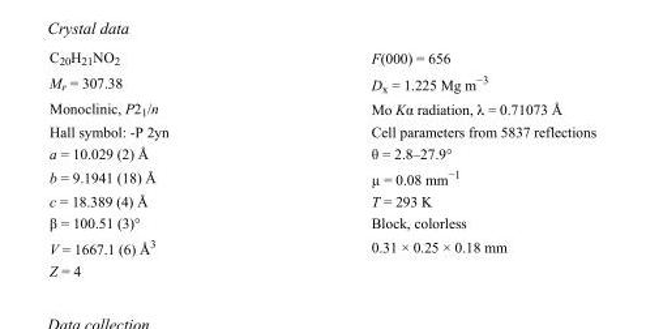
<table><tbody><tr><td>C<sub>20</sub>H<sub>21</sub>NO<sub>2</sub></td><td>F(000) = 656</td></tr><tr><td>M<sub>r</sub> = 307.38</td><td>D<sub>x</sub> = 1.225 Mg m<sup>−3</sup></td></tr><tr><td>Monoclinic, P2<sub>1</sub>/n</td><td>Mo Kα radiation, λ = 0.71073 Å</td></tr><tr><td>Hall symbol: -P 2yn</td><td>Cell parameters from 5837 reflections</td></tr><tr><td>a = 10.029 (2) Å</td><td>θ = 2.8–27.9°</td></tr><tr><td>b = 9.1941 (18) Å</td><td>µ = 0.08 mm<sup>−1</sup></td></tr><tr><td>c = 18.389 (4) Å</td><td>T = 293 K</td></tr><tr><td>β = 100.51 (3)°</td><td>Block, colorless</td></tr><tr><td>V = 1667.1 (6) Å<sup>3</sup></td><td>0.31 × 0.25 × 0.18 mm</td></tr><tr><td>Z = 4</td><td></td></tr></tbody></table>